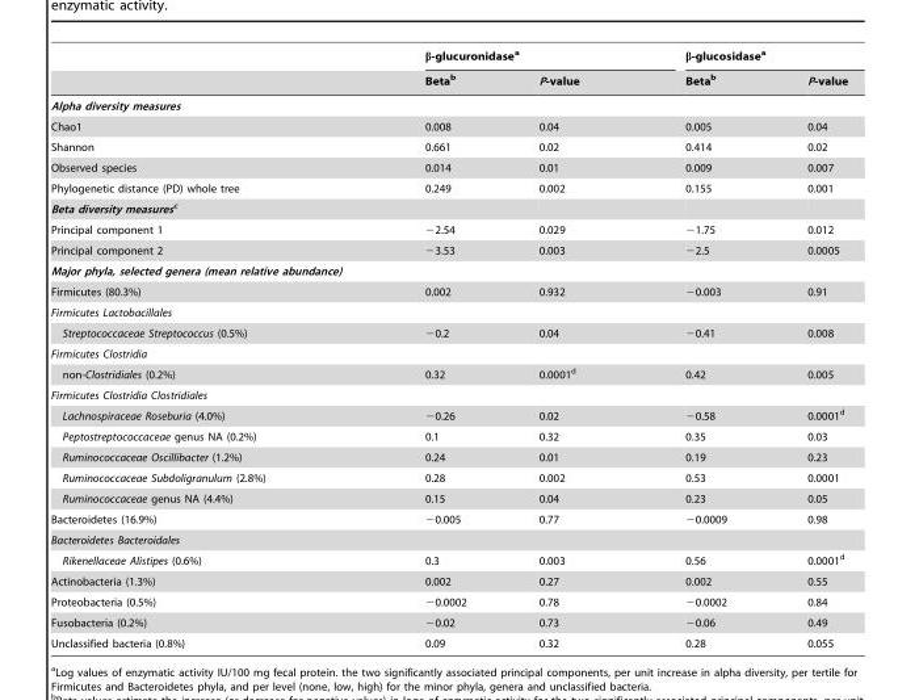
<table><thead><tr><td rowspan="2"></td><td colspan="2">β-glucuronidase<sup>a</sup></td><td colspan="2">β-glucosidase<sup>a</sup></td></tr><tr><td>Beta<sup>b</sup></td><td>P-value</td><td>Beta<sup>b</sup></td><td>P-value</td></tr></thead><tbody><tr><td colspan="5">Alpha diversity measures</td></tr><tr><td>Chao1</td><td>0.008</td><td>0.04</td><td>0.005</td><td>0.04</td></tr><tr><td>Shannon</td><td>0.661</td><td>0.02</td><td>0.414</td><td>0.02</td></tr><tr><td>Observed species</td><td>0.014</td><td>0.01</td><td>0.009</td><td>0.007</td></tr><tr><td>Phylogenetic distance (PD) whole tree</td><td>0.249</td><td>0.002</td><td>0.155</td><td>0.001</td></tr><tr><td colspan="5">Beta diversity measuresc</td></tr><tr><td>Principal component 1</td><td>−2.54</td><td>0.029</td><td>−1.75</td><td>0.012</td></tr><tr><td>Principal component 2</td><td>−3.53</td><td>0.003</td><td>−2.5</td><td>0.0005</td></tr><tr><td colspan="5">Major phyla, selected genera (mean relative abundance)</td></tr><tr><td>Firmicutes (80.3%)</td><td>0.002</td><td>0.932</td><td>−0.003</td><td>0.91</td></tr><tr><td colspan="5">Firmicutes Lactobacillales</td></tr><tr><td>Streptococcaceae Streptococcus (0.5%)</td><td>−0.2</td><td>0.04</td><td>−0.41</td><td>0.008</td></tr><tr><td colspan="5">Firmicutes Clostridia</td></tr><tr><td>non-Clostridiales (0.2%)</td><td>0.32</td><td>0.0001<sup>d</sup></td><td>0.42</td><td>0.005</td></tr><tr><td colspan="5">Firmicutes Clostridia Clostridiales</td></tr><tr><td>Lachnospiraceae Roseburia (4.0%)</td><td>−0.26</td><td>0.02</td><td>−0.58</td><td>0.0001<sup>d</sup></td></tr><tr><td>Peptostreptococcaceae genus NA (0.2%)</td><td>0.1</td><td>0.32</td><td>0.35</td><td>0.03</td></tr><tr><td>Ruminococcaceae Oscillibacter (1.2%)</td><td>0.24</td><td>0.01</td><td>0.19</td><td>0.23</td></tr><tr><td>Ruminococcaceae Subdoligranulum (2.8%)</td><td>0.28</td><td>0.002</td><td>0.53</td><td>0.0001</td></tr><tr><td>Ruminococcaceae genus NA (4.4%)</td><td>0.15</td><td>0.04</td><td>0.23</td><td>0.05</td></tr><tr><td>Bacteroidetes (16.9%)</td><td>−0.005</td><td>0.77</td><td>−0.0009</td><td>0.98</td></tr><tr><td colspan="5">Bacteroidetes Bacteroidales</td></tr><tr><td>Rikenellaceae Alistipes (0.6%)</td><td>0.3</td><td>0.003</td><td>0.56</td><td>0.0001<sup>d</sup></td></tr><tr><td>Actinobacteria (1.3%)</td><td>0.002</td><td>0.27</td><td>0.002</td><td>0.55</td></tr><tr><td>Proteobacteria (0.5%)</td><td>−0.0002</td><td>0.78</td><td>−0.0002</td><td>0.84</td></tr><tr><td>Fusobacteria (0.2%)</td><td>−0.02</td><td>0.73</td><td>−0.06</td><td>0.49</td></tr><tr><td>Unclassified bacteria (0.8%)</td><td>0.09</td><td>0.32</td><td>0.28</td><td>0.055</td></tr></tbody></table>